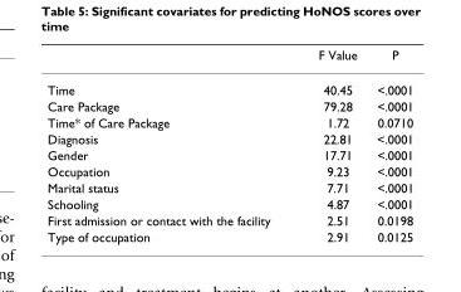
<table><thead><tr><td></td><td>F Value</td><td>P</td></tr></thead><tbody><tr><td>Time</td><td>40.45</td><td>&lt;.0001</td></tr><tr><td>Care Package</td><td>79.28</td><td>&lt;.0001</td></tr><tr><td>Time* of Care Package</td><td>1.72</td><td>0.0710</td></tr><tr><td>Diagnosis</td><td>22.81</td><td>&lt;.0001</td></tr><tr><td>Gender</td><td>17.71</td><td>&lt;.0001</td></tr><tr><td>Occupation</td><td>9.23</td><td>&lt;.0001</td></tr><tr><td>Marital status</td><td>7.71</td><td>&lt;.0001</td></tr><tr><td>Schooling</td><td>4.87</td><td>&lt;.0001</td></tr><tr><td>First admission or contact with the facility</td><td>2.51</td><td>0.0198</td></tr><tr><td>Type of occupation</td><td>2.91</td><td>0.0125</td></tr></tbody></table>